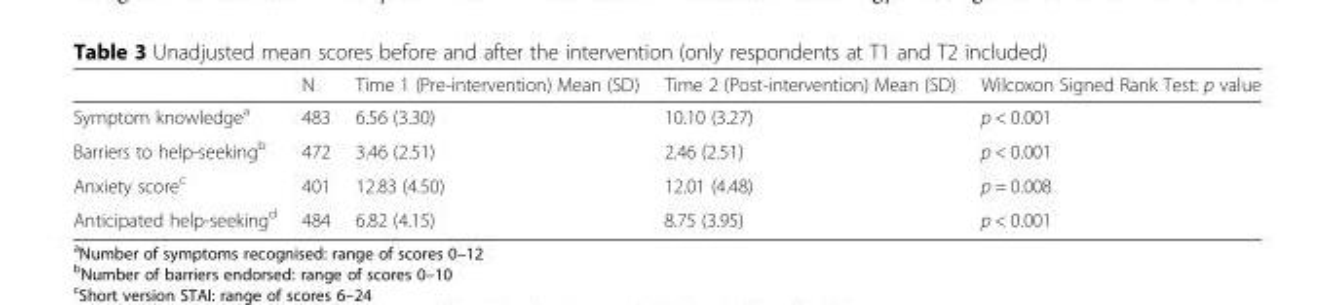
<table><thead><tr><td></td><td>N</td><td>Time 1 (Pre-intervention) Mean (SD)</td><td>Time 2 (Post-intervention) Mean (SD)</td><td>Wilcoxon Signed Rank Test: p value</td></tr></thead><tbody><tr><td>Symptom knowledge<sup>a</sup></td><td>483</td><td>6.56 (3.30)</td><td>10.10 (3.27)</td><td>p &lt; 0.001</td></tr><tr><td>Barriers to help-seeking<sup>b</sup></td><td>472</td><td>3.46 (2.51)</td><td>2.46 (2.51)</td><td>p &lt; 0.001</td></tr><tr><td>Anxiety score<sup>c</sup></td><td>401</td><td>12.83 (4.50)</td><td>12.01 (4.48)</td><td>p = 0.008</td></tr><tr><td>Anticipated help-seeking<sup>d</sup></td><td>484</td><td>6.82 (4.15)</td><td>8.75 (3.95)</td><td>p &lt; 0.001</td></tr></tbody></table>